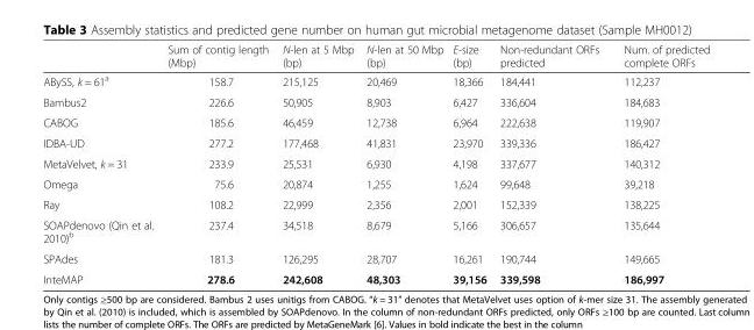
<table><thead><tr><td></td><td>Sum of contig length (Mbp)</td><td>N-len at 5 Mbp (bp)</td><td>N-len at 50 Mbp (bp)</td><td>E-size (bp)</td><td>Non-redundant ORFs predicted</td><td>Num. of predicted complete ORFs</td></tr></thead><tbody><tr><td>ABySS, k = 61<sup>a</sup></td><td>158.7</td><td>215,125</td><td>20,469</td><td>18,366</td><td>184,441</td><td>112,237</td></tr><tr><td>Bambus2</td><td>226.6</td><td>50,905</td><td>8,903</td><td>6,427</td><td>336,604</td><td>184,683</td></tr><tr><td>CABOG</td><td>185.6</td><td>46,459</td><td>12,738</td><td>6,964</td><td>222,638</td><td>119,907</td></tr><tr><td>IDBA-UD</td><td>277.2</td><td>177,468</td><td>41,831</td><td>23,970</td><td>339,336</td><td>186,427</td></tr><tr><td>MetaVelvet, k = 31</td><td>233.9</td><td>25,531</td><td>6,930</td><td>4,198</td><td>337,677</td><td>140,312</td></tr><tr><td>Omega</td><td>75.6</td><td>20,874</td><td>1,255</td><td>1,624</td><td>99,648</td><td>39,218</td></tr><tr><td>Ray</td><td>108.2</td><td>22,999</td><td>2,356</td><td>2,001</td><td>152,339</td><td>138,225</td></tr><tr><td>SOAPdenovo (Qin et al. 2010)<sup>b</sup></td><td>237.4</td><td>34,518</td><td>8,679</td><td>5,166</td><td>306,657</td><td>135,644</td></tr><tr><td>SPAdes</td><td>181.3</td><td>126,295</td><td>28,707</td><td>16,261</td><td>190,744</td><td>149,665</td></tr><tr><td>InteMAP</td><td>278.6</td><td>242,608</td><td>48,303</td><td>39,156</td><td>339,598</td><td>186,997</td></tr></tbody></table>